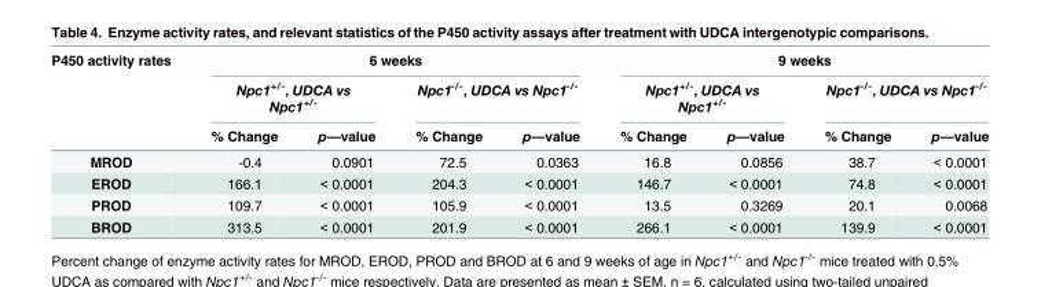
<table><thead><tr><td rowspan="3">P450 activity rates</td><td colspan="4">6 weeks</td><td colspan="4">9 weeks</td></tr><tr><td colspan="2">Npc1<sup>+/-</sup>, UDCA vs Npc1<sup>+/-</sup></td><td colspan="2">Npc1<sup>-/-</sup>, UDCA vs Npc1<sup>-/-</sup></td><td colspan="2">Npc1<sup>+/-</sup>, UDCA vs Npc1<sup>+/-</sup></td><td colspan="2">Npc1<sup>-/-</sup>, UDCA vs Npc1<sup>-/-</sup></td></tr><tr><td>% Change</td><td>p—value</td><td>% Change</td><td>p—value</td><td>% Change</td><td>p—value</td><td>% Change</td><td>p—value</td></tr></thead><tbody><tr><td>MROD</td><td>-0.4</td><td>0.0901</td><td>72.5</td><td>0.0363</td><td>16.8</td><td>0.0856</td><td>38.7</td><td>&lt; 0.0001</td></tr><tr><td>EROD</td><td>166.1</td><td>&lt; 0.0001</td><td>204.3</td><td>&lt; 0.0001</td><td>146.7</td><td>&lt; 0.0001</td><td>74.8</td><td>&lt; 0.0001</td></tr><tr><td>PROD</td><td>109.7</td><td>&lt; 0.0001</td><td>105.9</td><td>&lt; 0.0001</td><td>13.5</td><td>0.3269</td><td>20.1</td><td>0.0068</td></tr><tr><td>BROD</td><td>313.5</td><td>&lt; 0.0001</td><td>201.9</td><td>&lt; 0.0001</td><td>266.1</td><td>&lt; 0.0001</td><td>139.9</td><td>&lt; 0.0001</td></tr></tbody></table>